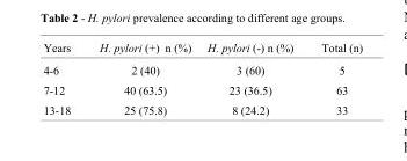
<table><thead><tr><td>Years</td><td>H. pylori (+) n (%)</td><td>H. pylori (-) n (%)</td><td>Total (n)</td></tr></thead><tbody><tr><td>4-6</td><td>2 (40)</td><td>3 (60)</td><td>5</td></tr><tr><td>7-12</td><td>40 (63.5)</td><td>23 (36.5)</td><td>63</td></tr><tr><td>13-18</td><td>25 (75.8)</td><td>8 (24.2)</td><td>33</td></tr></tbody></table>